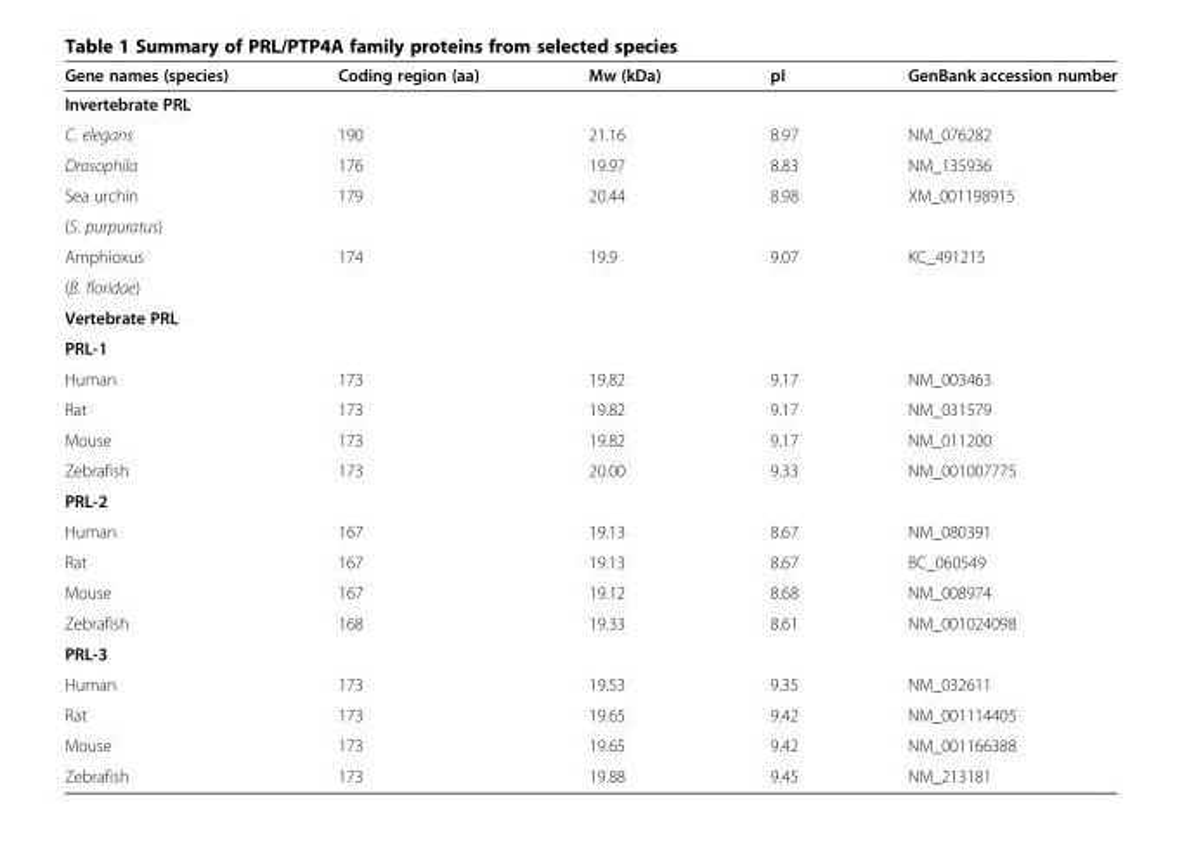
<table><thead><tr><td>Gene names (species)</td><td>Coding region (aa)</td><td>Mw (kDa)</td><td>pI</td><td>GenBank accession number</td></tr></thead><tbody><tr><td colspan="5">Invertebrate PRL</td></tr><tr><td>C. elegans</td><td>190</td><td>21.16</td><td>8.97</td><td>NM_076282</td></tr><tr><td>Drosophila</td><td>176</td><td>19.97</td><td>8.83</td><td>NM_135936</td></tr><tr><td>Sea urchin</td><td>179</td><td>20.44</td><td>8.98</td><td>XM_001198915</td></tr><tr><td colspan="5">(S. purpuratus)</td></tr><tr><td>Amphioxus</td><td>174</td><td>19.9</td><td>9.07</td><td>KC_491215</td></tr><tr><td colspan="5">(B. floridae)</td></tr><tr><td colspan="5">Vertebrate PRL</td></tr><tr><td colspan="5">PRL-1</td></tr><tr><td>Human</td><td>173</td><td>19.82</td><td>9.17</td><td>NM_003463</td></tr><tr><td>Rat</td><td>173</td><td>19.82</td><td>9.17</td><td>NM_031579</td></tr><tr><td>Mouse</td><td>173</td><td>19.82</td><td>9.17</td><td>NM_011200</td></tr><tr><td>Zebrafish</td><td>173</td><td>20.00</td><td>9.33</td><td>NM_001007775</td></tr><tr><td colspan="5">PRL-2</td></tr><tr><td>Human</td><td>167</td><td>19.13</td><td>8.67</td><td>NM_080391</td></tr><tr><td>Rat</td><td>167</td><td>19.13</td><td>8.67</td><td>BC_060549</td></tr><tr><td>Mouse</td><td>167</td><td>19.12</td><td>8.68</td><td>NM_008974</td></tr><tr><td>Zebrafish</td><td>168</td><td>19.33</td><td>8.61</td><td>NM_001024098</td></tr><tr><td colspan="5">PRL-3</td></tr><tr><td>Human</td><td>173</td><td>19.53</td><td>9.35</td><td>NM_032611</td></tr><tr><td>Rat</td><td>173</td><td>19.65</td><td>9.42</td><td>NM_001114405</td></tr><tr><td>Mouse</td><td>173</td><td>19.65</td><td>9.42</td><td>NM_001166388</td></tr><tr><td>Zebrafish</td><td>173</td><td>19.88</td><td>9.45</td><td>NM_213181</td></tr></tbody></table>